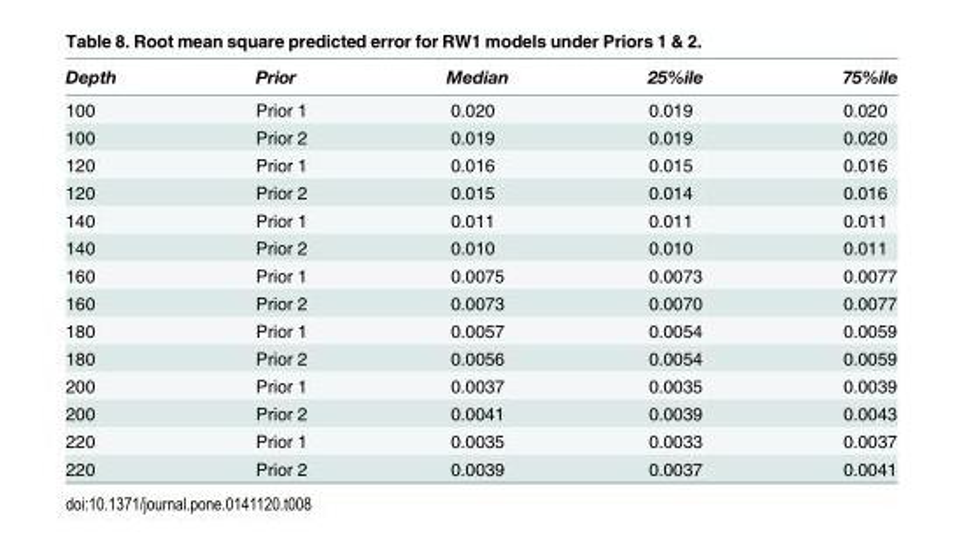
<table><thead><tr><td>Depth</td><td>Prior</td><td>Median</td><td>25%ile</td><td>75%ile</td></tr></thead><tbody><tr><td>100</td><td>Prior 1</td><td>0.020</td><td>0.019</td><td>0.020</td></tr><tr><td>100</td><td>Prior 2</td><td>0.019</td><td>0.019</td><td>0.020</td></tr><tr><td>120</td><td>Prior 1</td><td>0.016</td><td>0.015</td><td>0.016</td></tr><tr><td>120</td><td>Prior 2</td><td>0.015</td><td>0.014</td><td>0.016</td></tr><tr><td>140</td><td>Prior 1</td><td>0.011</td><td>0.011</td><td>0.011</td></tr><tr><td>140</td><td>Prior 2</td><td>0.010</td><td>0.010</td><td>0.011</td></tr><tr><td>160</td><td>Prior 1</td><td>0.0075</td><td>0.0073</td><td>0.0077</td></tr><tr><td>160</td><td>Prior 2</td><td>0.0073</td><td>0.0070</td><td>0.0077</td></tr><tr><td>180</td><td>Prior 1</td><td>0.0057</td><td>0.0054</td><td>0.0059</td></tr><tr><td>180</td><td>Prior 2</td><td>0.0056</td><td>0.0054</td><td>0.0059</td></tr><tr><td>200</td><td>Prior 1</td><td>0.0037</td><td>0.0035</td><td>0.0039</td></tr><tr><td>200</td><td>Prior 2</td><td>0.0041</td><td>0.0039</td><td>0.0043</td></tr><tr><td>220</td><td>Prior 1</td><td>0.0035</td><td>0.0033</td><td>0.0037</td></tr><tr><td>220</td><td>Prior 2</td><td>0.0039</td><td>0.0037</td><td>0.0041</td></tr></tbody></table>